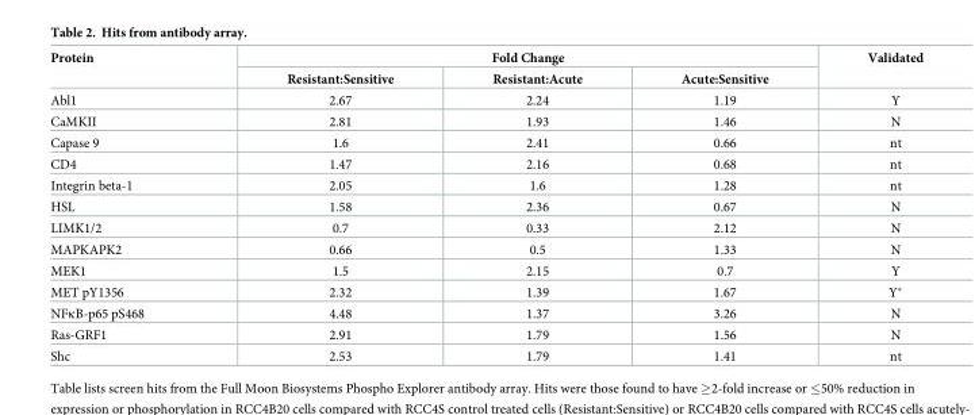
<table><thead><tr><td rowspan="2">Protein</td><td colspan="3">Fold Change</td><td rowspan="2">Validated</td></tr><tr><td>Resistant:Sensitive</td><td>Resistant:Acute</td><td>Acute:Sensitive</td></tr></thead><tbody><tr><td>Abl1</td><td>2.67</td><td>2.24</td><td>1.19</td><td>Y</td></tr><tr><td>CaMKII</td><td>2.81</td><td>1.93</td><td>1.46</td><td>N</td></tr><tr><td>Capase 9</td><td>1.6</td><td>2.41</td><td>0.66</td><td>nt</td></tr><tr><td>CD4</td><td>1.47</td><td>2.16</td><td>0.68</td><td>nt</td></tr><tr><td>Integrin beta-1</td><td>2.05</td><td>1.6</td><td>1.28</td><td>nt</td></tr><tr><td>HSL</td><td>1.58</td><td>2.36</td><td>0.67</td><td>N</td></tr><tr><td>LIMK1/2</td><td>0.7</td><td>0.33</td><td>2.12</td><td>N</td></tr><tr><td>MAPKAPK2</td><td>0.66</td><td>0.5</td><td>1.33</td><td>N</td></tr><tr><td>MEK1</td><td>1.5</td><td>2.15</td><td>0.7</td><td>Y</td></tr><tr><td>MET pY1356</td><td>2.32</td><td>1.39</td><td>1.67</td><td>Y*</td></tr><tr><td>NFκB-p65 pS468</td><td>4.48</td><td>1.37</td><td>3.26</td><td>N</td></tr><tr><td>Ras-GRF1</td><td>2.91</td><td>1.79</td><td>1.56</td><td>N</td></tr><tr><td>Shc</td><td>2.53</td><td>1.79</td><td>1.41</td><td>nt</td></tr></tbody></table>